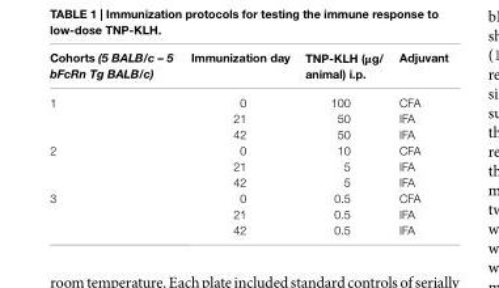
<table><thead><tr><td>cohorts (5 BALB/c – 5 bFcRn Tg BALB/c)</td><td>immunization day</td><td>TnP-Klh (μg/ animal) i.p.</td><td>adjuvant</td></tr></thead><tbody><tr><td rowspan="3">1</td><td>0</td><td>100</td><td>CFA</td></tr><tr><td>21</td><td>50</td><td>IFA</td></tr><tr><td>42</td><td>50</td><td>IFA</td></tr><tr><td rowspan="3">2</td><td>0</td><td>10</td><td>CFA</td></tr><tr><td>21</td><td>5</td><td>IFA</td></tr><tr><td>42</td><td>5</td><td>IFA</td></tr><tr><td rowspan="3">3</td><td>0</td><td>0.5</td><td>CFA</td></tr><tr><td>21</td><td>0.5</td><td>IFA</td></tr><tr><td>42</td><td>0.5</td><td>IFA</td></tr></tbody></table>